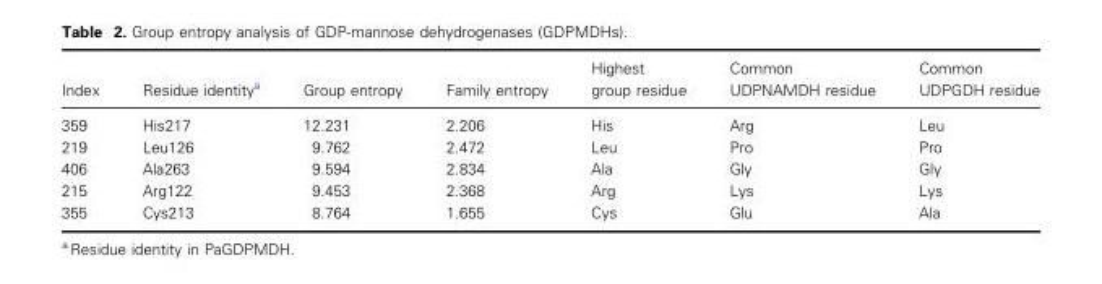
<table><thead><tr><td>Index</td><td>Residue identity<sup>a</sup></td><td>Group entropy</td><td>Family entropy</td><td>Highest group residue</td><td>Common UDPNAMDH residue</td><td>Common UDPGDH residue</td></tr></thead><tbody><tr><td>359</td><td>His217</td><td>12.231</td><td>2.206</td><td>His</td><td>Arg</td><td>Leu</td></tr><tr><td>219</td><td>Leu126</td><td>9.762</td><td>2.472</td><td>Leu</td><td>Pro</td><td>Pro</td></tr><tr><td>406</td><td>Ala263</td><td>9.594</td><td>2.834</td><td>Ala</td><td>Gly</td><td>Gly</td></tr><tr><td>215</td><td>Arg122</td><td>9.453</td><td>2.368</td><td>Arg</td><td>Lys</td><td>Lys</td></tr><tr><td>355</td><td>Cys213</td><td>8.764</td><td>1.655</td><td>Cys</td><td>Glu</td><td>Ala</td></tr></tbody></table>